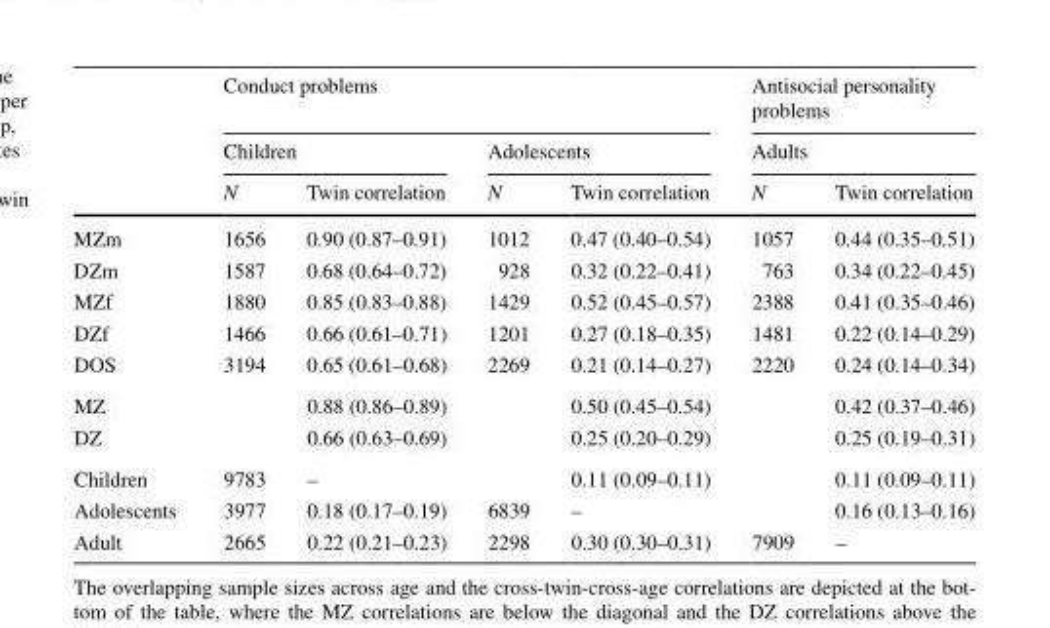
<table><thead><tr><td rowspan="3"></td><td colspan="4">Conduct problems</td><td rowspan="2" colspan="2">Antisocial personality problems Adults</td></tr><tr><td colspan="2">Children</td><td colspan="2">Adolescents</td></tr><tr><td>N</td><td>Twin correlation</td><td>N</td><td>Twin correlation</td><td>N</td><td>Twin correlation</td></tr></thead><tbody><tr><td>MZm</td><td>1656</td><td>0.90 (0.87–0.91)</td><td>1012</td><td>0.47 (0.40–0.54)</td><td>1057</td><td>0.44 (0.35–0.51)</td></tr><tr><td>DZm</td><td>1587</td><td>0.68 (0.64–0.72)</td><td>928</td><td>0.32 (0.22–0.41)</td><td>763</td><td>0.34 (0.22–0.45)</td></tr><tr><td>MZf</td><td>1880</td><td>0.85 (0.83–0.88)</td><td>1429</td><td>0.52 (0.45–0.57)</td><td>2388</td><td>0.41 (0.35–0.46)</td></tr><tr><td>DZf</td><td>1466</td><td>0.66 (0.61–0.71)</td><td>1201</td><td>0.27 (0.18–0.35)</td><td>1481</td><td>0.22 (0.14–0.29)</td></tr><tr><td>DOS</td><td>3194</td><td>0.65 (0.61–0.68)</td><td>2269</td><td>0.21 (0.14–0.27)</td><td>2220</td><td>0.24 (0.14–0.34)</td></tr><tr><td>MZ</td><td></td><td>0.88 (0.86–0.89)</td><td></td><td>0.50 (0.45–0.54)</td><td></td><td>0.42 (0.37–0.46)</td></tr><tr><td>DZ</td><td></td><td>0.66 (0.63–0.69)</td><td></td><td>0.25 (0.20–0.29)</td><td></td><td>0.25 (0.19–0.31)</td></tr><tr><td>Children</td><td>9783</td><td>–</td><td></td><td>0.11 (0.09–0.11)</td><td></td><td>0.11 (0.09–0.11)</td></tr><tr><td>Adolescents</td><td>3977</td><td>0.18 (0.17–0.19)</td><td>6839</td><td>–</td><td></td><td>0.16 (0.13–0.16)</td></tr><tr><td>Adult</td><td>2665</td><td>0.22 (0.21–0.23)</td><td>2298</td><td>0.30 (0.30–0.31)</td><td>7909</td><td>–</td></tr></tbody></table>